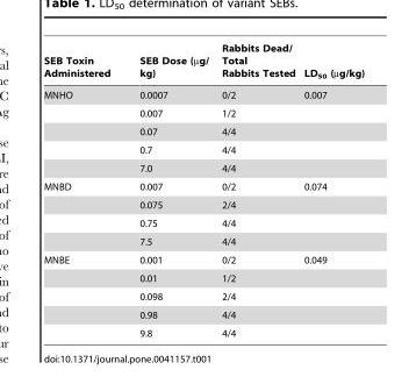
<table><thead><tr><td>SEB Toxin Administered</td><td>SEB Dose (µg/ kg)</td><td>Rabbits Dead/ Total Rabbits Tested</td><td>LD<sub>50</sub> (µg/kg)</td></tr></thead><tbody><tr><td rowspan="5">MNHO</td><td>0.0007</td><td>0/2</td><td>0.007</td></tr><tr><td>0.007</td><td>1/2</td><td></td></tr><tr><td>0.07</td><td>4/4</td><td></td></tr><tr><td>0.7</td><td>4/4</td><td></td></tr><tr><td>7.0</td><td>4/4</td><td></td></tr><tr><td rowspan="4">MNBD</td><td>0.007</td><td>0/2</td><td>0.074</td></tr><tr><td>0.075</td><td>2/4</td><td></td></tr><tr><td>0.75</td><td>4/4</td><td></td></tr><tr><td>7.5</td><td>4/4</td><td></td></tr><tr><td rowspan="5">MNBE</td><td>0.001</td><td>0/2</td><td>0.049</td></tr><tr><td>0.01</td><td>1/2</td><td></td></tr><tr><td>0.098</td><td>2/4</td><td></td></tr><tr><td>0.98</td><td>4/4</td><td></td></tr><tr><td>9.8</td><td>4/4</td><td></td></tr></tbody></table>